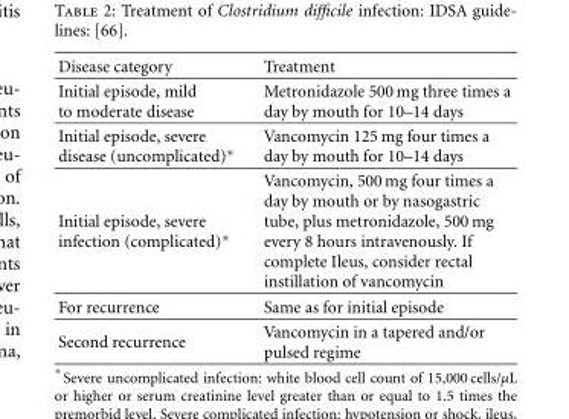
<table><thead><tr><td>Disease category</td><td>Treatment</td></tr></thead><tbody><tr><td>Initial episode, mild to moderate disease</td><td>Metronidazole 500 mg three times a day by mouth for 10–14 days</td></tr><tr><td>Initial episode, severe disease (uncomplicated)∗</td><td>Vancomycin 125 mg four times a day by mouth for 10–14 days</td></tr><tr><td>Initial episode, severe infection (complicated)∗</td><td>Vancomycin, 500 mg four times a day by mouth or by nasogastric tube, plus metronidazole, 500 mg every 8 hours intravenously. If complete Ileus, consider rectal instillation of vancomycin</td></tr><tr><td>For recurrence</td><td>Same as for initial episode</td></tr><tr><td>Second recurrence</td><td>Vancomycin in a tapered and/or pulsed regime</td></tr></tbody></table>